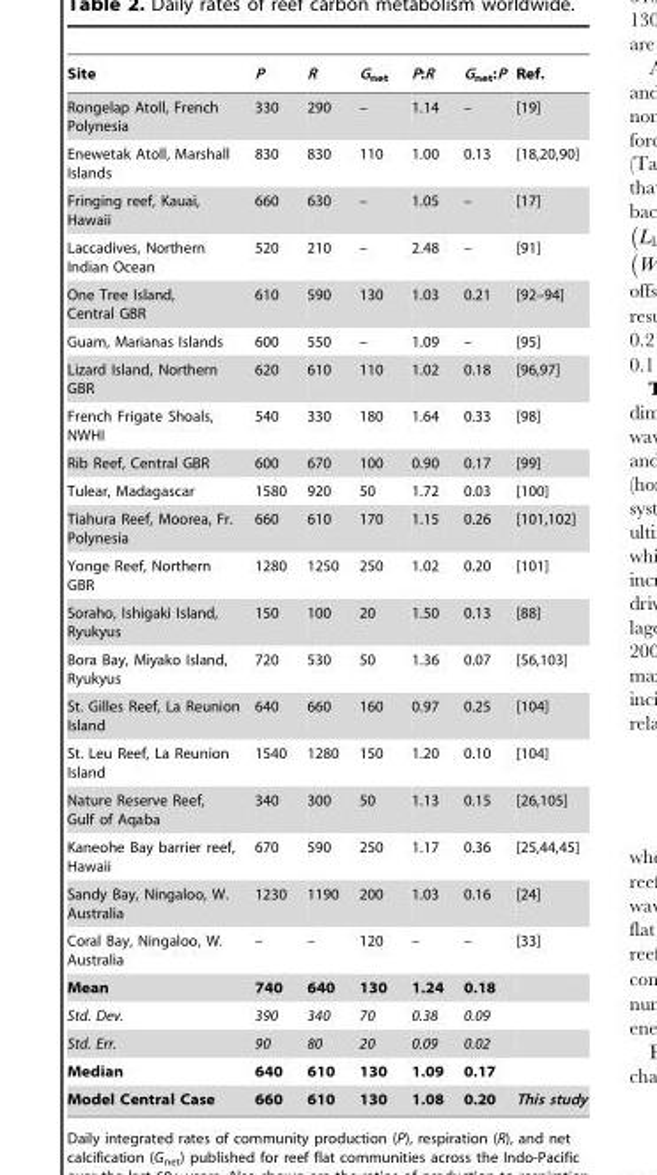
<table><thead><tr><td>Site</td><td>P</td><td>R</td><td>G<sub>net</sub></td><td>P:R</td><td>Gnet:P</td><td>Ref.</td></tr></thead><tbody><tr><td>Rongelap Atoll, French Polynesia</td><td>330</td><td>290</td><td>–</td><td>1.14</td><td>–</td><td>[19]</td></tr><tr><td>Enewetak Atoll, Marshall Islands</td><td>830</td><td>830</td><td>110</td><td>1.00</td><td>0.13</td><td>[18,20,90]</td></tr><tr><td>Fringing reef, Kauai, Hawaii</td><td>660</td><td>630</td><td>–</td><td>1.05</td><td>–</td><td>[17]</td></tr><tr><td>Laccadives, Northern Indian Ocean</td><td>520</td><td>210</td><td>–</td><td>2.48</td><td>–</td><td>[91]</td></tr><tr><td>One Tree Island, Central GBR</td><td>610</td><td>590</td><td>130</td><td>1.03</td><td>0.21</td><td>[92–94]</td></tr><tr><td>Guam, Marianas Islands</td><td>600</td><td>550</td><td>–</td><td>1.09</td><td>–</td><td>[95]</td></tr><tr><td>Lizard Island, Northern GBR</td><td>620</td><td>610</td><td>110</td><td>1.02</td><td>0.18</td><td>[96,97]</td></tr><tr><td>French Frigate Shoals, NWHI</td><td>540</td><td>330</td><td>180</td><td>1.64</td><td>0.33</td><td>[98]</td></tr><tr><td>Rib Reef, Central GBR</td><td>600</td><td>670</td><td>100</td><td>0.90</td><td>0.17</td><td>[99]</td></tr><tr><td>Tulear, Madagascar</td><td>1580</td><td>920</td><td>50</td><td>1.72</td><td>0.03</td><td>[100]</td></tr><tr><td>Tiahura Reef, Moorea, Fr. Polynesia</td><td>660</td><td>610</td><td>170</td><td>1.15</td><td>0.26</td><td>[101,102]</td></tr><tr><td>Yonge Reef, Northern GBR</td><td>1280</td><td>1250</td><td>250</td><td>1.02</td><td>0.20</td><td>[101]</td></tr><tr><td>Soraho, Ishigaki Island, Ryukyus</td><td>150</td><td>100</td><td>20</td><td>1.50</td><td>0.13</td><td>[88]</td></tr><tr><td>Bora Bay, Miyako Island, Ryukyus</td><td>720</td><td>530</td><td>50</td><td>1.36</td><td>0.07</td><td>[56,103]</td></tr><tr><td>St. Gilles Reef, La Reunion Island</td><td>640</td><td>660</td><td>160</td><td>0.97</td><td>0.25</td><td>[104]</td></tr><tr><td>St. Leu Reef, La Reunion Island</td><td>1540</td><td>1280</td><td>150</td><td>1.20</td><td>0.10</td><td>[104]</td></tr><tr><td>Nature Reserve Reef, Gulf of Aqaba</td><td>340</td><td>300</td><td>50</td><td>1.13</td><td>0.15</td><td>[26,105]</td></tr><tr><td>Kaneohe Bay barrier reef, Hawaii</td><td>670</td><td>590</td><td>250</td><td>1.17</td><td>0.36</td><td>[25,44,45]</td></tr><tr><td>Sandy Bay, Ningaloo, W. Australia</td><td>1230</td><td>1190</td><td>200</td><td>1.03</td><td>0.16</td><td>[24]</td></tr><tr><td>Coral Bay, Ningaloo, W. Australia</td><td>–</td><td>–</td><td>120</td><td>–</td><td>–</td><td>[33]</td></tr><tr><td>Mean</td><td>740</td><td>640</td><td>130</td><td>1.24</td><td>0.18</td><td></td></tr><tr><td>Std. Dev.</td><td>390</td><td>340</td><td>70</td><td>0.38</td><td>0.09</td><td></td></tr><tr><td>Std. Err.</td><td>90</td><td>80</td><td>20</td><td>0.09</td><td>0.02</td><td></td></tr><tr><td>Median</td><td>640</td><td>610</td><td>130</td><td>1.09</td><td>0.17</td><td></td></tr><tr><td>Model Central Case</td><td>660</td><td>610</td><td>130</td><td>1.08</td><td>0.20</td><td>This study</td></tr></tbody></table>